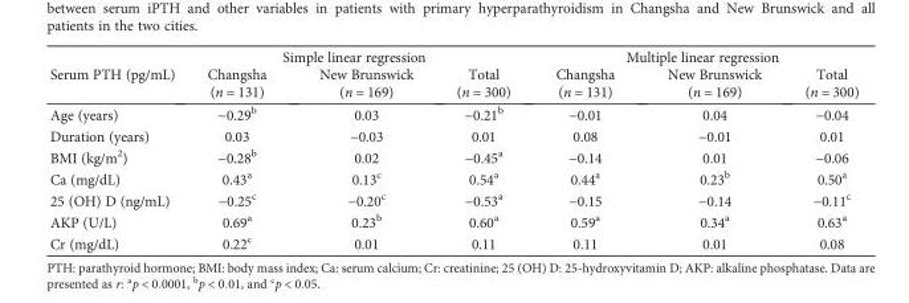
<table><thead><tr><td rowspan="2">Serum PTH (pg/mL)</td><td colspan="3">Simple linear regression</td><td colspan="3">Multiple linear regression</td></tr><tr><td>Changsha (n = 131)</td><td>New Brunswick (n = 169)</td><td>Total (n = 300)</td><td>Changsha (n = 131)</td><td>New Brunswick (n = 169)</td><td>Total (n = 300)</td></tr></thead><tbody><tr><td>Age (years)</td><td>−0.29<sup>b</sup></td><td>0.03</td><td>−0.21<sup>b</sup></td><td>−0.01</td><td>0.04</td><td>−0.04</td></tr><tr><td>Duration (years)</td><td>0.03</td><td>−0.03</td><td>0.01</td><td>0.08</td><td>−0.01</td><td>0.01</td></tr><tr><td>BMI (kg/m<sup>2</sup>)</td><td>−0.28<sup>b</sup></td><td>0.02</td><td>−0.45<sup>a</sup></td><td>−0.14</td><td>0.01</td><td>−0.06</td></tr><tr><td>Ca (mg/dL)</td><td>0.43<sup>a</sup></td><td>0.13<sup>c</sup></td><td>0.54<sup>a</sup></td><td>0.44<sup>a</sup></td><td>0.23<sup>b</sup></td><td>0.50<sup>a</sup></td></tr><tr><td>25 (OH) D (ng/mL)</td><td>−0.25<sup>c</sup></td><td>−0.20<sup>c</sup></td><td>−0.53<sup>a</sup></td><td>−0.15</td><td>−0.14</td><td>−0.11<sup>c</sup></td></tr><tr><td>AKP (U/L)</td><td>0.69<sup>a</sup></td><td>0.23<sup>b</sup></td><td>0.60<sup>a</sup></td><td>0.59<sup>a</sup></td><td>0.34<sup>a</sup></td><td>0.63<sup>a</sup></td></tr><tr><td>Cr (mg/dL)</td><td>0.22<sup>c</sup></td><td>0.01</td><td>0.11</td><td>0.11</td><td>0.01</td><td>0.08</td></tr></tbody></table>